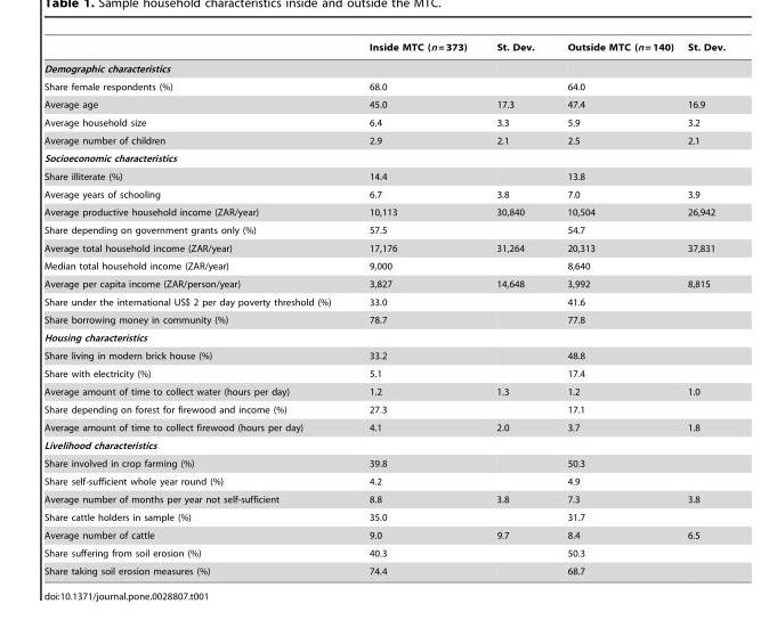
<table><thead><tr><td></td><td>Inside MTC (n = 373)</td><td>St. Dev.</td><td>Outside MTC (n = 140)</td><td>St. Dev.</td></tr></thead><tbody><tr><td colspan="5">Demographic characteristics</td></tr><tr><td>Share female respondents (%)</td><td>68.0</td><td></td><td>64.0</td><td></td></tr><tr><td>Average age</td><td>45.0</td><td>17.3</td><td>47.4</td><td>16.9</td></tr><tr><td>Average household size</td><td>6.4</td><td>3.3</td><td>5.9</td><td>3.2</td></tr><tr><td>Average number of children</td><td>2.9</td><td>2.1</td><td>2.5</td><td>2.1</td></tr><tr><td colspan="5">Socioeconomic characteristics</td></tr><tr><td>Share illiterate (%)</td><td>14.4</td><td></td><td>13.8</td><td></td></tr><tr><td>Average years of schooling</td><td>6.7</td><td>3.8</td><td>7.0</td><td>3.9</td></tr><tr><td>Average productive household income (ZAR/year)</td><td>10,113</td><td>30,840</td><td>10,504</td><td>26,942</td></tr><tr><td>Share depending on government grants only (%)</td><td>57.5</td><td></td><td>54.7</td><td></td></tr><tr><td>Average total household income (ZAR/year)</td><td>17,176</td><td>31,264</td><td>20,313</td><td>37,831</td></tr><tr><td>Median total household income (ZAR/year)</td><td>9,000</td><td></td><td>8,640</td><td></td></tr><tr><td>Average per capita income (ZAR/person/year)</td><td>3,827</td><td>14,648</td><td>3,992</td><td>8,815</td></tr><tr><td>Share under the international US$ 2 per day poverty threshold (%)</td><td>33.0</td><td></td><td>41.6</td><td></td></tr><tr><td>Share borrowing money in community (%)</td><td>78.7</td><td></td><td>77.8</td><td></td></tr><tr><td colspan="5">Housing characteristics</td></tr><tr><td>Share living in modern brick house (%)</td><td>33.2</td><td></td><td>48.8</td><td></td></tr><tr><td>Share with electricity (%)</td><td>5.1</td><td></td><td>17.4</td><td></td></tr><tr><td>Average amount of time to collect water (hours per day)</td><td>1.2</td><td>1.3</td><td>1.2</td><td>1.0</td></tr><tr><td>Share depending on forest for firewood and income (%)</td><td>27.3</td><td></td><td>17.1</td><td></td></tr><tr><td>Average amount of time to collect firewood (hours per day)</td><td>4.1</td><td>2.0</td><td>3.7</td><td>1.8</td></tr><tr><td colspan="5">Livelihood characteristics</td></tr><tr><td>Share involved in crop farming (%)</td><td>39.8</td><td></td><td>50.3</td><td></td></tr><tr><td>Share self-sufficient whole year round (%)</td><td>4.2</td><td></td><td>4.9</td><td></td></tr><tr><td>Average number of months per year not self-sufficient</td><td>8.8</td><td>3.8</td><td>7.3</td><td>3.8</td></tr><tr><td>Share cattle holders in sample (%)</td><td>35.0</td><td></td><td>31.7</td><td></td></tr><tr><td>Average number of cattle</td><td>9.0</td><td>9.7</td><td>8.4</td><td>6.5</td></tr><tr><td>Share suffering from soil erosion (%)</td><td>40.3</td><td></td><td>50.3</td><td></td></tr><tr><td>Share taking soil erosion measures (%)</td><td>74.4</td><td></td><td>68.7</td><td></td></tr></tbody></table>